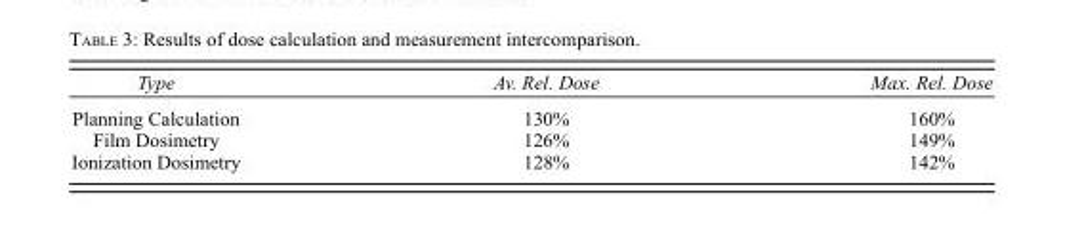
<table><thead><tr><td>Type</td><td>Av. Rel. Dose</td><td>Max. Rel. Dose</td></tr></thead><tbody><tr><td>Planning Calculation</td><td>130%</td><td>160%</td></tr><tr><td>Film Dosimetry</td><td>126%</td><td>149%</td></tr><tr><td>Ionization Dosimetry</td><td>128%</td><td>142%</td></tr></tbody></table>